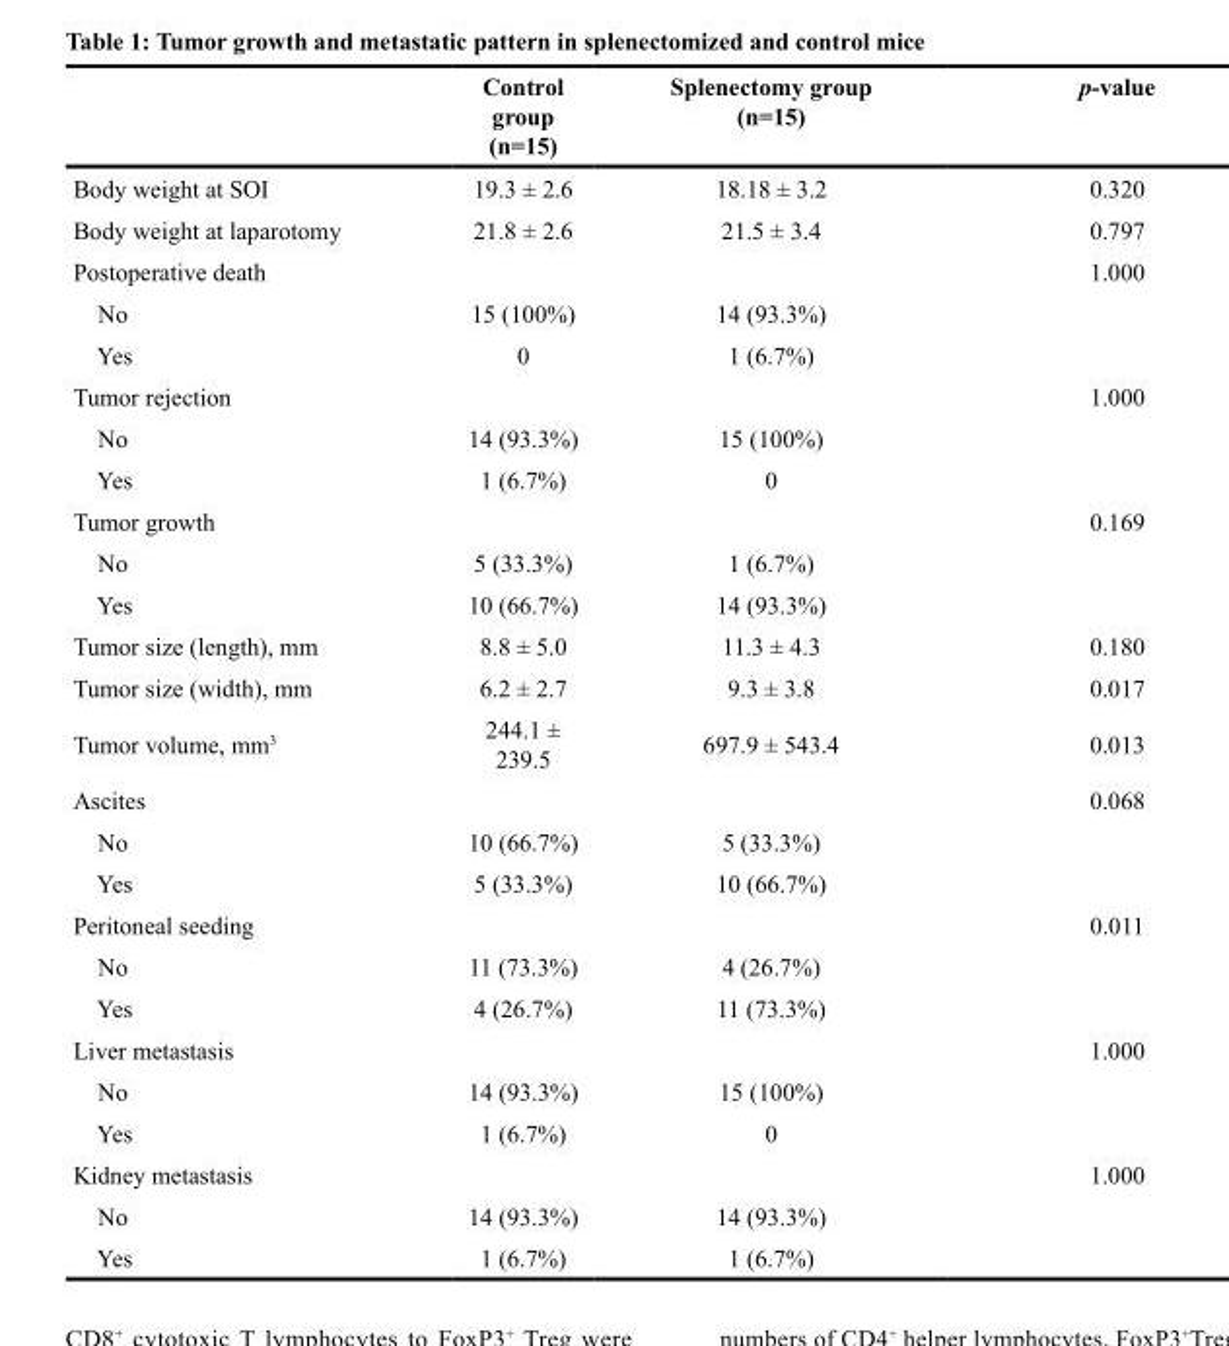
<table><thead><tr><td></td><td>Control group (n=15)</td><td>Splenectomy group (n=15)</td><td>p-value</td></tr></thead><tbody><tr><td>Body weight at SOI</td><td>19.3 ± 2.6</td><td>18.18 ± 3.2</td><td>0.320</td></tr><tr><td>Body weight at laparotomy</td><td>21.8 ± 2.6</td><td>21.5 ± 3.4</td><td>0.797</td></tr><tr><td>Postoperative death</td><td></td><td></td><td>1.000</td></tr><tr><td>No</td><td>15 (100%)</td><td>14 (93.3%)</td><td></td></tr><tr><td>Yes</td><td>0</td><td>1 (6.7%)</td><td></td></tr><tr><td>Tumor rejection</td><td></td><td></td><td>1.000</td></tr><tr><td>No</td><td>14 (93.3%)</td><td>15 (100%)</td><td></td></tr><tr><td>Yes</td><td>1 (6.7%)</td><td>0</td><td></td></tr><tr><td>Tumor growth</td><td></td><td></td><td>0.169</td></tr><tr><td>No</td><td>5 (33.3%)</td><td>1 (6.7%)</td><td></td></tr><tr><td>Yes</td><td>10 (66.7%)</td><td>14 (93.3%)</td><td></td></tr><tr><td>Tumor size (length), mm</td><td>8.8 ± 5.0</td><td>11.3 ± 4.3</td><td>0.180</td></tr><tr><td>Tumor size (width), mm</td><td>6.2 ± 2.7</td><td>9.3 ± 3.8</td><td>0.017</td></tr><tr><td>Tumor volume, mm<sup>3</sup></td><td>244.1 ± 239.5</td><td>697.9 ± 543.4</td><td>0.013</td></tr><tr><td>Ascites</td><td></td><td></td><td>0.068</td></tr><tr><td>No</td><td>10 (66.7%)</td><td>5 (33.3%)</td><td></td></tr><tr><td>Yes</td><td>5 (33.3%)</td><td>10 (66.7%)</td><td></td></tr><tr><td>Peritoneal seeding</td><td></td><td></td><td>0.011</td></tr><tr><td>No</td><td>11 (73.3%)</td><td>4 (26.7%)</td><td></td></tr><tr><td>Yes</td><td>4 (26.7%)</td><td>11 (73.3%)</td><td></td></tr><tr><td>Liver metastasis</td><td></td><td></td><td>1.000</td></tr><tr><td>No</td><td>14 (93.3%)</td><td>15 (100%)</td><td></td></tr><tr><td>Yes</td><td>1 (6.7%)</td><td>0</td><td></td></tr><tr><td>Kidney metastasis</td><td></td><td></td><td>1.000</td></tr><tr><td>No</td><td>14 (93.3%)</td><td>14 (93.3%)</td><td></td></tr><tr><td>Yes</td><td>1 (6.7%)</td><td>1 (6.7%)</td><td></td></tr></tbody></table>